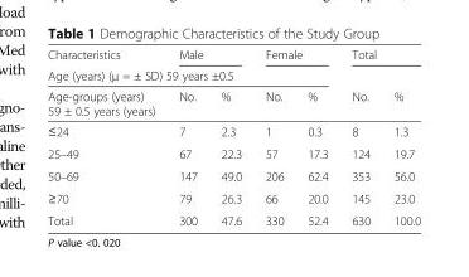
<table><thead><tr><td>Characteristics</td><td colspan="2">Male</td><td colspan="2">Female</td><td colspan="2">Total</td></tr><tr><td colspan="5">Age (years) (μ = ± SD) 59 years ±0.5</td><td rowspan="2">No.</td><td rowspan="2">%</td></tr><tr><td>Age-groups (years) 59 ± 0.5 years (years)</td><td>No.</td><td>%</td><td>No.</td><td>%</td></tr></thead><tbody><tr><td>≤24</td><td>7</td><td>2.3</td><td>1</td><td>0.3</td><td>8</td><td>1.3</td></tr><tr><td>25–49</td><td>67</td><td>22.3</td><td>57</td><td>17.3</td><td>124</td><td>19.7</td></tr><tr><td>50–69</td><td>147</td><td>49.0</td><td>206</td><td>62.4</td><td>353</td><td>56.0</td></tr><tr><td>≥70</td><td>79</td><td>26.3</td><td>66</td><td>20.0</td><td>145</td><td>23.0</td></tr><tr><td>Total</td><td>300</td><td>47.6</td><td>330</td><td>52.4</td><td>630</td><td>100.0</td></tr></tbody></table>